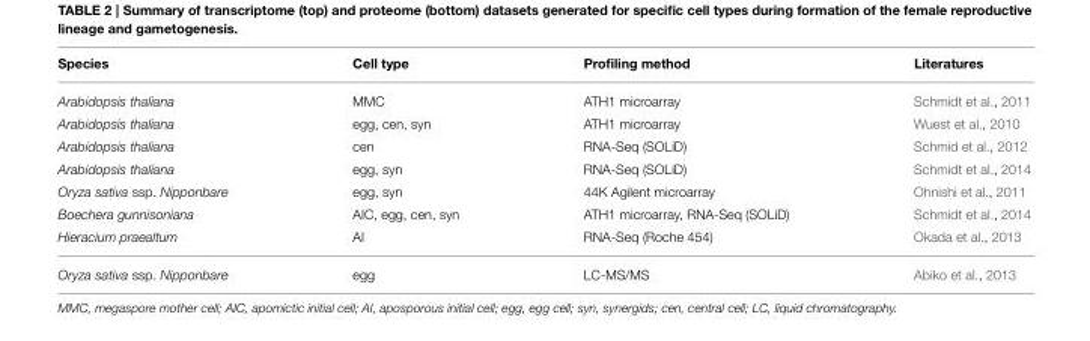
<table><thead><tr><td>Species</td><td>Cell type</td><td>Profiling method</td><td>Literatures</td></tr></thead><tbody><tr><td>Arabidopsis thaliana</td><td>MMC</td><td>ATH1 microarray</td><td>Schmidt et al., 2011</td></tr><tr><td>Arabidopsis thaliana</td><td>egg, cen, syn</td><td>ATH1 microarray</td><td>Wuest et al., 2010</td></tr><tr><td>Arabidopsis thaliana</td><td>cen</td><td>RNA-Seq (SOLiD)</td><td>Schmid et al., 2012</td></tr><tr><td>Arabidopsis thaliana</td><td>egg, syn</td><td>RNA-Seq (SOLiD)</td><td>Schmidt et al., 2014</td></tr><tr><td>Oryza sativa ssp. Nipponbare</td><td>egg, syn</td><td>44K Agilent microarray</td><td>Ohnishi et al., 2011</td></tr><tr><td>Boechera gunnisoniana</td><td>AIC, egg, cen, syn</td><td>ATH1 microarray, RNA-Seq (SOLiD)</td><td>Schmidt et al., 2014</td></tr><tr><td>Hieracium praealtum</td><td>AI</td><td>RNA-Seq (Roche 454)</td><td>Okada et al., 2013</td></tr><tr><td>Oryza sativa ssp. Nipponbare</td><td>egg</td><td>LC-MS/MS</td><td>Abiko et al., 2013</td></tr></tbody></table>